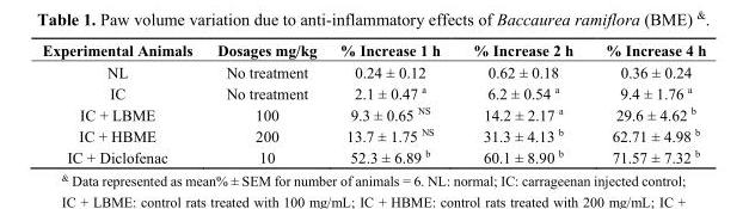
<table><thead><tr><td>Experimental Animals</td><td>Dosages mg/kg</td><td>% Increase 1 h</td><td>% Increase 2 h</td><td>% Increase 4 h</td></tr></thead><tbody><tr><td>NL</td><td>No treatment</td><td>0.24 ± 0.12</td><td>0.62 ± 0.18</td><td>0.36 ± 0.24</td></tr><tr><td>IC</td><td>No treatment</td><td>2.1 ± 0.47 <sup>a</sup></td><td>6.2 ± 0.54 <sup>a</sup></td><td>9.4 ± 1.76 <sup>a</sup></td></tr><tr><td>IC + LBME</td><td>100</td><td>9.3 ± 0.65 <sup>NS</sup></td><td>14.2 ± 2.17 <sup>a</sup></td><td>29.6 ± 4.62 <sup>b</sup></td></tr><tr><td>IC + HBME</td><td>200</td><td>13.7 ± 1.75 <sup>NS</sup></td><td>31.3 ± 4.13 <sup>b</sup></td><td>62.71 ± 4.98 <sup>b</sup></td></tr><tr><td>IC + Diclofenac</td><td>10</td><td>52.3 ± 6.89 <sup>b</sup></td><td>60.1 ± 8.90 <sup>b</sup></td><td>71.57 ± 7.32 <sup>b</sup></td></tr></tbody></table>